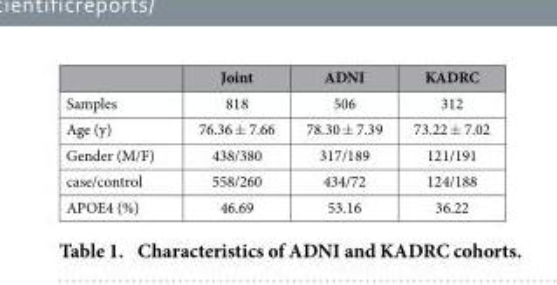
<table><thead><tr><td></td><td>Joint</td><td>ADNI</td><td>KADRC</td></tr></thead><tbody><tr><td>Samples</td><td>818</td><td>506</td><td>312</td></tr><tr><td>Age (y)</td><td>76.36 ± 7.66</td><td>78.30 ± 7.39</td><td>73.22 ± 7.02</td></tr><tr><td>Gender (M/F)</td><td>438/380</td><td>317/189</td><td>121/191</td></tr><tr><td>case/control</td><td>558/260</td><td>434/72</td><td>124/188</td></tr><tr><td>APOE4 (%)</td><td>46.69</td><td>53.16</td><td>36.22</td></tr></tbody></table>